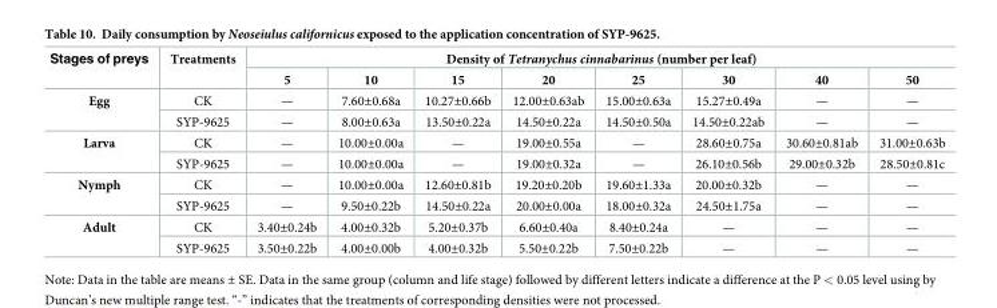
<table><thead><tr><td rowspan="2">Stages of preys</td><td rowspan="2">Treatments</td><td colspan="8">Density of Tetranychus cinnabarinus (number per leaf)</td></tr><tr><td>5</td><td>10</td><td>15</td><td>20</td><td>25</td><td>30</td><td>40</td><td>50</td></tr></thead><tbody><tr><td rowspan="2">Egg</td><td>CK</td><td>—</td><td>7.60±0.68a</td><td>10.27±0.66b</td><td>12.00±0.63ab</td><td>15.00±0.63a</td><td>15.27±0.49a</td><td>—</td><td>—</td></tr><tr><td>SYP-9625</td><td>—</td><td>8.00±0.63a</td><td>13.50±0.22a</td><td>14.50±0.22a</td><td>14.50±0.50a</td><td>14.50±0.22ab</td><td>—</td><td>—</td></tr><tr><td rowspan="2">Larva</td><td>CK</td><td>—</td><td>10.00±0.00a</td><td>—</td><td>19.00±0.55a</td><td>—</td><td>28.60±0.75a</td><td>30.60±0.81ab</td><td>31.00±0.63b</td></tr><tr><td>SYP-9625</td><td>—</td><td>10.00±0.00a</td><td>—</td><td>19.00±0.32a</td><td>—</td><td>26.10±0.56b</td><td>29.00±0.32b</td><td>28.50±0.81c</td></tr><tr><td rowspan="2">Nymph</td><td>CK</td><td>—</td><td>10.00±0.00a</td><td>12.60±0.81b</td><td>19.20±0.20b</td><td>19.60±1.33a</td><td>20.00±0.32b</td><td>—</td><td>—</td></tr><tr><td>SYP-9625</td><td>—</td><td>9.50±0.22b</td><td>14.50±0.22a</td><td>20.00±0.00a</td><td>18.00±0.32a</td><td>24.50±1.75a</td><td>—</td><td>—</td></tr><tr><td rowspan="2">Adult</td><td>CK</td><td>3.40±0.24b</td><td>4.00±0.32b</td><td>5.20±0.37b</td><td>6.60±0.40a</td><td>8.40±0.24a</td><td>—</td><td>—</td><td>—</td></tr><tr><td>SYP-9625</td><td>3.50±0.22b</td><td>4.00±0.00b</td><td>4.00±0.32b</td><td>5.50±0.22b</td><td>7.50±0.22b</td><td>—</td><td>—</td><td>—</td></tr></tbody></table>